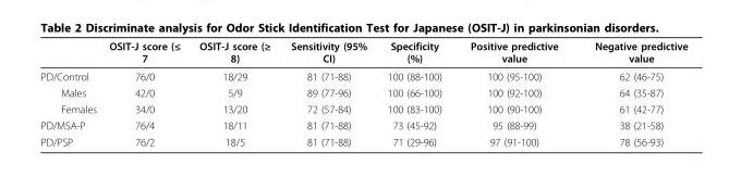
<table><thead><tr><td></td><td>OSIT-J score (≤ 7</td><td>OSIT-J score (≥ 8)</td><td>Sensitivity (95% CI)</td><td>Specificity (%)</td><td>Positive predictive value</td><td>Negative predictive value</td></tr></thead><tbody><tr><td>PD/Control</td><td>76/0</td><td>18/29</td><td>81 (71-88)</td><td>100 (88-100)</td><td>100 (95-100)</td><td>62 (46-75)</td></tr><tr><td>Males</td><td>42/0</td><td>5/9</td><td>89 (77-96)</td><td>100 (66-100)</td><td>100 (92-100)</td><td>64 (35-87)</td></tr><tr><td>Females</td><td>34/0</td><td>13/20</td><td>72 (57-84)</td><td>100 (83-100)</td><td>100 (90-100)</td><td>61 (42-77)</td></tr><tr><td>PD/MSA-P</td><td>76/4</td><td>18/11</td><td>81 (71-88)</td><td>73 (45-92)</td><td>95 (88-99)</td><td>38 (21-58)</td></tr><tr><td>PD/PSP</td><td>76/2</td><td>18/5</td><td>81 (71-88)</td><td>71 (29-96)</td><td>97 (91-100)</td><td>78 (56-93)</td></tr></tbody></table>